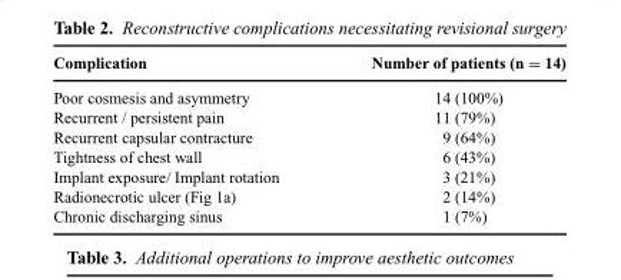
<table><thead><tr><td>Complication</td><td>Number of patients (n = 14)</td></tr></thead><tbody><tr><td>Poor cosmesis and asymmetry</td><td>14 (100%)</td></tr><tr><td>Recurrent / persistent pain</td><td>11 (79%)</td></tr><tr><td>Recurrent capsular contracture</td><td>9 (64%)</td></tr><tr><td>Tightness of chest wall</td><td>6 (43%)</td></tr><tr><td>Implant exposure/ Implant rotation</td><td>3 (21%)</td></tr><tr><td>Radionecrotic ulcer (Fig 1a)</td><td>2 (14%)</td></tr><tr><td>Chronic discharging sinus</td><td>1 (7%)</td></tr></tbody></table>